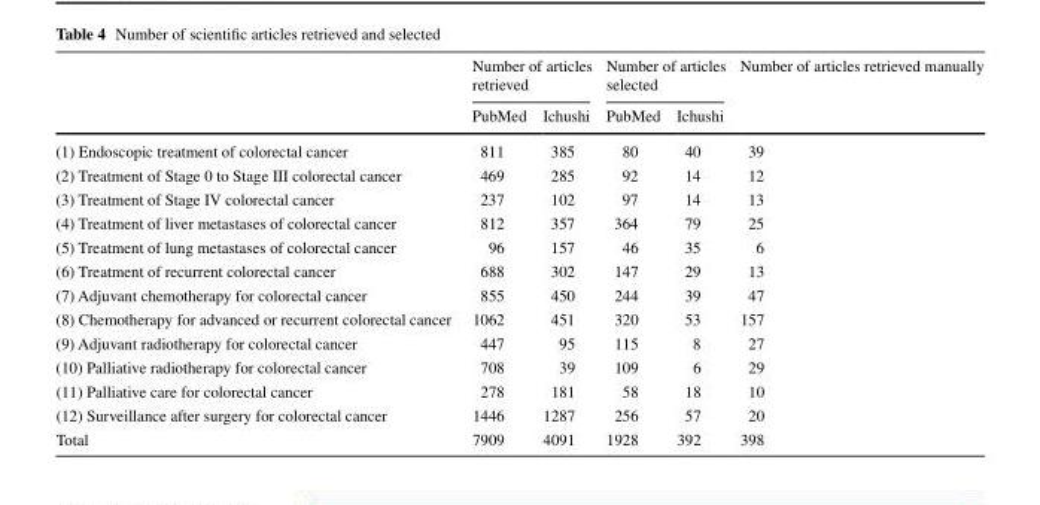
<table><thead><tr><td rowspan="2"></td><td colspan="2">Number of articles retrieved</td><td colspan="2">Number of articles selected</td><td rowspan="2">Number of articles retrieved manually</td></tr><tr><td>PubMed</td><td>Ichushi</td><td>PubMed</td><td>Ichushi</td></tr></thead><tbody><tr><td>(1) Endoscopic treatment of colorectal cancer</td><td>811</td><td>385</td><td>80</td><td>40</td><td>39</td></tr><tr><td>(2) Treatment of Stage 0 to Stage III colorectal cancer</td><td>469</td><td>285</td><td>92</td><td>14</td><td>12</td></tr><tr><td>(3) Treatment of Stage IV colorectal cancer</td><td>237</td><td>102</td><td>97</td><td>14</td><td>13</td></tr><tr><td>(4) Treatment of liver metastases of colorectal cancer</td><td>812</td><td>357</td><td>364</td><td>79</td><td>25</td></tr><tr><td>(5) Treatment of lung metastases of colorectal cancer</td><td>96</td><td>157</td><td>46</td><td>35</td><td>6</td></tr><tr><td>(6) Treatment of recurrent colorectal cancer</td><td>688</td><td>302</td><td>147</td><td>29</td><td>13</td></tr><tr><td>(7) Adjuvant chemotherapy for colorectal cancer</td><td>855</td><td>450</td><td>244</td><td>39</td><td>47</td></tr><tr><td>(8) Chemotherapy for advanced or recurrent colorectal cancer</td><td>1062</td><td>451</td><td>320</td><td>53</td><td>157</td></tr><tr><td>(9) Adjuvant radiotherapy for colorectal cancer</td><td>447</td><td>95</td><td>115</td><td>8</td><td>27</td></tr><tr><td>(10) Palliative radiotherapy for colorectal cancer</td><td>708</td><td>39</td><td>109</td><td>6</td><td>29</td></tr><tr><td>(11) Palliative care for colorectal cancer</td><td>278</td><td>181</td><td>58</td><td>18</td><td>10</td></tr><tr><td>(12) Surveillance after surgery for colorectal cancer</td><td>1446</td><td>1287</td><td>256</td><td>57</td><td>20</td></tr><tr><td>Total</td><td>7909</td><td>4091</td><td>1928</td><td>392</td><td>398</td></tr></tbody></table>